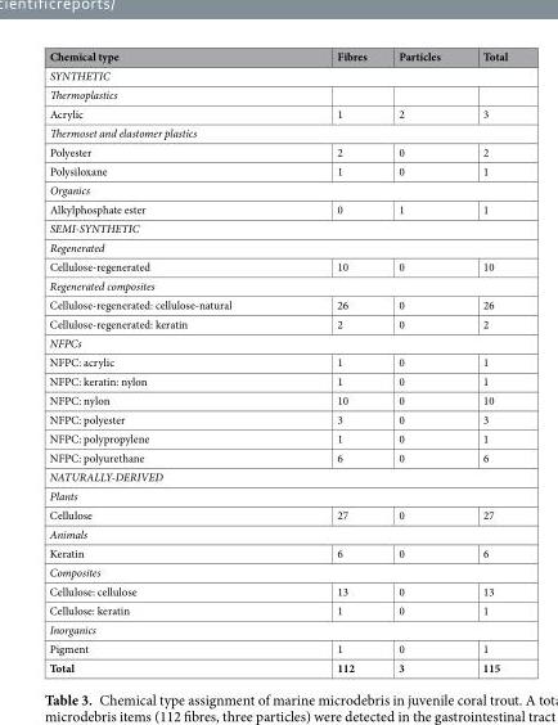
<table><thead><tr><td>Chemical type</td><td>Fibres</td><td>Particles</td><td>Total</td></tr></thead><tbody><tr><td colspan="4">SYNTHETIC</td></tr><tr><td colspan="4">Thermoplastics</td></tr><tr><td>Acrylic</td><td>1</td><td>2</td><td>3</td></tr><tr><td colspan="4">Thermoset and elastomer plastics</td></tr><tr><td>Polyester</td><td>2</td><td>0</td><td>2</td></tr><tr><td>Polysiloxane</td><td>1</td><td>0</td><td>1</td></tr><tr><td colspan="4">Organics</td></tr><tr><td>Alkylphosphate ester</td><td>0</td><td>1</td><td>1</td></tr><tr><td colspan="4">SEMI-SYNTHETIC</td></tr><tr><td colspan="4">Regenerated</td></tr><tr><td>Cellulose-regenerated</td><td>10</td><td>0</td><td>10</td></tr><tr><td colspan="4">Regenerated composites</td></tr><tr><td>Cellulose-regenerated: cellulose-natural</td><td>26</td><td>0</td><td>26</td></tr><tr><td>Cellulose-regenerated: keratin</td><td>2</td><td>0</td><td>2</td></tr><tr><td colspan="4">NFPCs</td></tr><tr><td>NFPC: acrylic</td><td>1</td><td>0</td><td>1</td></tr><tr><td>NFPC: keratin: nylon</td><td>1</td><td>0</td><td>1</td></tr><tr><td>NFPC: nylon</td><td>10</td><td>0</td><td>10</td></tr><tr><td>NFPC: polyester</td><td>3</td><td>0</td><td>3</td></tr><tr><td>NFPC: polypropylene</td><td>1</td><td>0</td><td>1</td></tr><tr><td>NFPC: polyurethane</td><td>6</td><td>0</td><td>6</td></tr><tr><td colspan="4">NATURALLY-DERIVED</td></tr><tr><td colspan="4">Plants</td></tr><tr><td>Cellulose</td><td>27</td><td>0</td><td>27</td></tr><tr><td colspan="4">Animals</td></tr><tr><td>Keratin</td><td>6</td><td>0</td><td>6</td></tr><tr><td colspan="4">Composites</td></tr><tr><td>Cellulose: cellulose</td><td>13</td><td>0</td><td>13</td></tr><tr><td>Cellulose: keratin</td><td>1</td><td>0</td><td>1</td></tr><tr><td colspan="4">Inorganics</td></tr><tr><td>Pigment</td><td>1</td><td>0</td><td>1</td></tr><tr><td>Total</td><td>112</td><td>3</td><td>115</td></tr></tbody></table>